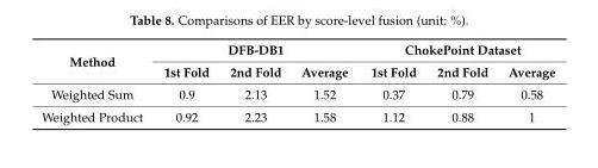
<table><thead><tr><td rowspan="2">Method</td><td colspan="3">DFB-DB1</td><td colspan="3">ChokePoint Dataset</td></tr><tr><td>1st Fold</td><td>2nd Fold</td><td>Average</td><td>1st Fold</td><td>2nd Fold</td><td>Average</td></tr></thead><tbody><tr><td>Weighted Sum</td><td>0.9</td><td>2.13</td><td>1.52</td><td>0.37</td><td>0.79</td><td>0.58</td></tr><tr><td>Weighted Product</td><td>0.92</td><td>2.23</td><td>1.58</td><td>1.12</td><td>0.88</td><td>1</td></tr></tbody></table>